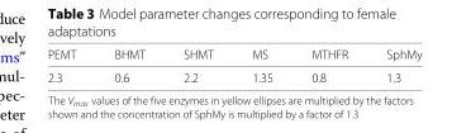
<table><thead><tr><td>PEMT</td><td>BHMT</td><td>SHMT</td><td>MS</td><td>MTHFR</td><td>SphMy</td></tr></thead><tbody><tr><td>2.3</td><td>0.6</td><td>2.2</td><td>1.35</td><td>0.8</td><td>1.3</td></tr></tbody></table>